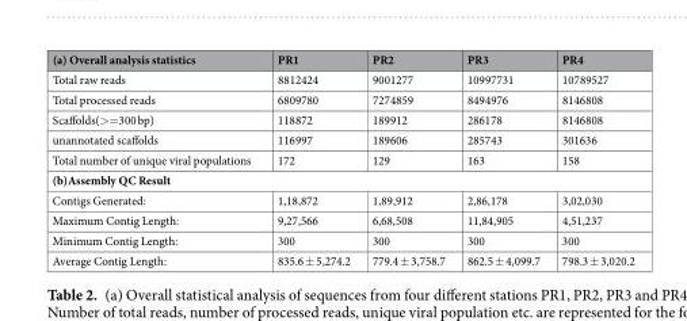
<table><thead><tr><td>(a) Overall analysis statistics</td><td>PR1</td><td>PR2</td><td>PR3</td><td>PR4</td></tr></thead><tbody><tr><td>Total raw reads</td><td>8812424</td><td>9001277</td><td>10997731</td><td>10789527</td></tr><tr><td>Total processed reads</td><td>6809780</td><td>7274859</td><td>8494976</td><td>8146808</td></tr><tr><td>Scaffolds(&gt;=300 bp)</td><td>118872</td><td>189912</td><td>286178</td><td>8146808</td></tr><tr><td>unannotated scaffolds</td><td>116997</td><td>189606</td><td>285743</td><td>301636</td></tr><tr><td>Total number of unique viral populations</td><td>172</td><td>129</td><td>163</td><td>158</td></tr><tr><td colspan="5">(b)Assembly QC Result</td></tr><tr><td>Contigs Generated:</td><td>1,18,872</td><td>1,89,912</td><td>2,86,178</td><td>3,02,030</td></tr><tr><td>Maximum Contig Length:</td><td>9,27,566</td><td>6,68,508</td><td>11,84,905</td><td>4,51,237</td></tr><tr><td>Minimum Contig Length:</td><td>300</td><td>300</td><td>300</td><td>300</td></tr><tr><td>Average Contig Length:</td><td>835.6 ± 5,274.2</td><td>779.4 ± 3,758.7</td><td>862.5 ± 4,099.7</td><td>798.3 ± 3,020.2</td></tr></tbody></table>